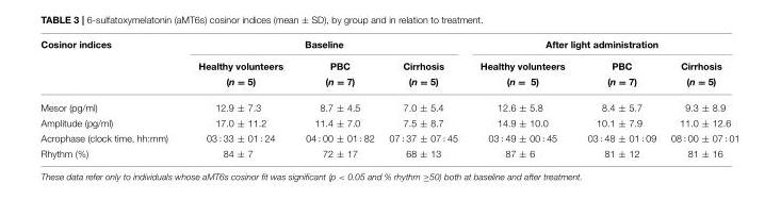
<table><thead><tr><td rowspan="3">Cosinor indices</td><td colspan="3">Baseline</td><td colspan="3">After light administration</td></tr><tr><td rowspan="2">Healthy volunteers (n = 5)</td><td rowspan="2">PBC (n = 7)</td><td rowspan="2">Cirrhosis (n = 5)</td><td rowspan="2">Healthy volunteers (n = 5)</td><td rowspan="2">PBC (n = 7)</td><td rowspan="2">Cirrhosis (n = 5)</td></tr><tr></tr></thead><tbody><tr><td>Mesor (pg/ml)</td><td>12.9 ± 7.3</td><td>8.7 ± 4.5</td><td>7.0 ± 5.4</td><td>12.6 ± 5.8</td><td>8.4 ± 5.7</td><td>9.3 ± 8.9</td></tr><tr><td>Amplitude (pg/ml)</td><td>17.0 ± 11.2</td><td>11.4 ± 7.0</td><td>7.5 ± 8.7</td><td>14.9 ± 10.0</td><td>10.1 ± 7.9</td><td>11.0 ± 12.6</td></tr><tr><td>Acrophase (clock time, hh:mm)</td><td>03 : 33 ± 01 : 24</td><td>04 : 00 ± 01 : 82</td><td>07 : 37 ± 07 : 45</td><td>03 : 49 ± 00 : 45</td><td>03 : 48 ± 01 : 09</td><td>08 : 00 ± 07 : 01</td></tr><tr><td>Rhythm (%)</td><td>84 ± 7</td><td>72 ± 17</td><td>68 ± 13</td><td>87 ± 6</td><td>81 ± 12</td><td>81 ± 16</td></tr></tbody></table>